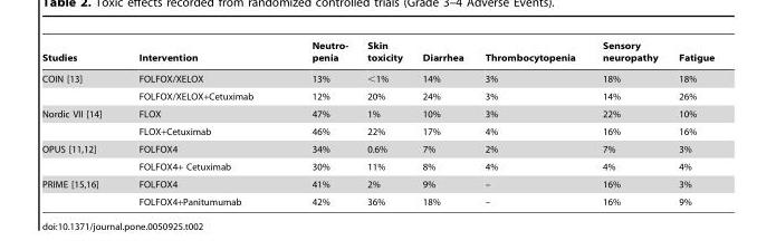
<table><thead><tr><td>Studies</td><td>Intervention</td><td>Neutro- penia</td><td>Skin toxicity</td><td>Diarrhea</td><td>Thrombocytopenia</td><td>Sensory neuropathy</td><td>Fatigue</td></tr></thead><tbody><tr><td rowspan="2">COIN [13]</td><td>FOLFOX/XELOX</td><td>13%</td><td>&lt;1%</td><td>14%</td><td>3%</td><td>18%</td><td>18%</td></tr><tr><td>FOLFOX/XELOX+Cetuximab</td><td>12%</td><td>20%</td><td>24%</td><td>3%</td><td>14%</td><td>26%</td></tr><tr><td rowspan="2">Nordic VII [14]</td><td>FLOX</td><td>47%</td><td>1%</td><td>10%</td><td>3%</td><td>22%</td><td>10%</td></tr><tr><td>FLOX+Cetuximab</td><td>46%</td><td>22%</td><td>17%</td><td>4%</td><td>16%</td><td>16%</td></tr><tr><td rowspan="2">OPUS [11,12]</td><td>FOLFOX4</td><td>34%</td><td>0.6%</td><td>7%</td><td>2%</td><td>7%</td><td>3%</td></tr><tr><td>FOLFOX4+ Cetuximab</td><td>30%</td><td>11%</td><td>8%</td><td>4%</td><td>4%</td><td>4%</td></tr><tr><td rowspan="2">PRIME [15,16]</td><td>FOLFOX4</td><td>41%</td><td>2%</td><td>9%</td><td>–</td><td>16%</td><td>3%</td></tr><tr><td>FOLFOX4+Panitumumab</td><td>42%</td><td>36%</td><td>18%</td><td>–</td><td>16%</td><td>9%</td></tr></tbody></table>